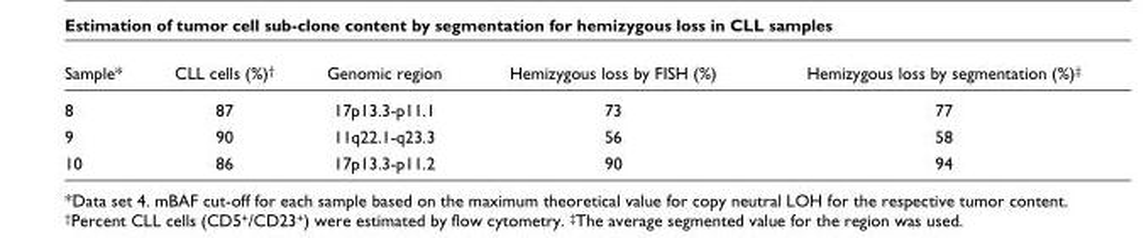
<table><thead><tr><td>Sample*</td><td>CLL cells (%)<sup>†</sup></td><td>Genomic region</td><td>Hemizygous loss by FISH (%)</td><td>Hemizygous loss by segmentation (%)<sup>‡</sup></td></tr></thead><tbody><tr><td>8</td><td>87</td><td>17p13.3-p11.1</td><td>73</td><td>77</td></tr><tr><td>9</td><td>90</td><td>11q22.1-q23.3</td><td>56</td><td>58</td></tr><tr><td>10</td><td>86</td><td>17p13.3-p11.2</td><td>90</td><td>94</td></tr></tbody></table>